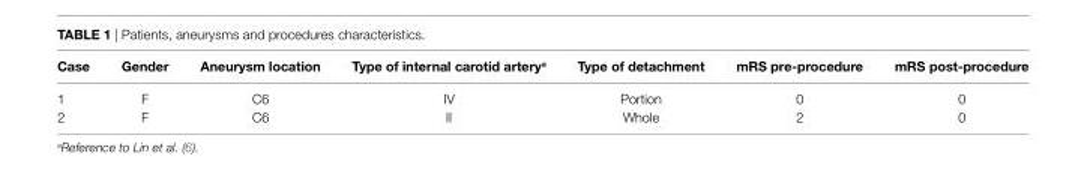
<table><thead><tr><td>Case</td><td>Gender</td><td>aneurysm location</td><td>type of internal carotid artery<sup>a</sup></td><td>type of detachment</td><td>mRs pre-procedure</td><td>mRs post-procedure</td></tr></thead><tbody><tr><td>1</td><td>F</td><td>C6</td><td>IV</td><td>Portion</td><td>0</td><td>0</td></tr><tr><td>2</td><td>F</td><td>C6</td><td>II</td><td>Whole</td><td>2</td><td>0</td></tr></tbody></table>